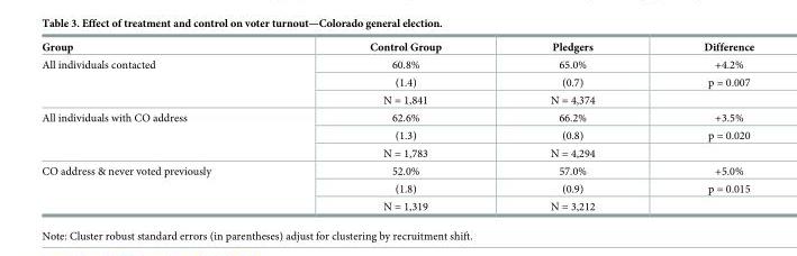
<table><thead><tr><td>Group</td><td>Control Group</td><td>Pledgers</td><td>Difference</td></tr></thead><tbody><tr><td rowspan="3">All individuals contacted</td><td>60.8%</td><td>65.0%</td><td>+4.2%</td></tr><tr><td>(1.4)</td><td>(0.7)</td><td>p = 0.007</td></tr><tr><td>N = 1,841</td><td>N = 4,374</td><td></td></tr><tr><td rowspan="3">All individuals with CO address</td><td>62.6%</td><td>66.2%</td><td>+3.5%</td></tr><tr><td>(1.3)</td><td>(0.8)</td><td>p = 0.020</td></tr><tr><td>N = 1,783</td><td>N = 4,294</td><td></td></tr><tr><td rowspan="3">CO address &amp; never voted previously</td><td>52.0%</td><td>57.0%</td><td>+5.0%</td></tr><tr><td>(1.8)</td><td>(0.9)</td><td>p = 0.015</td></tr><tr><td>N = 1,319</td><td>N = 3,212</td><td></td></tr></tbody></table>